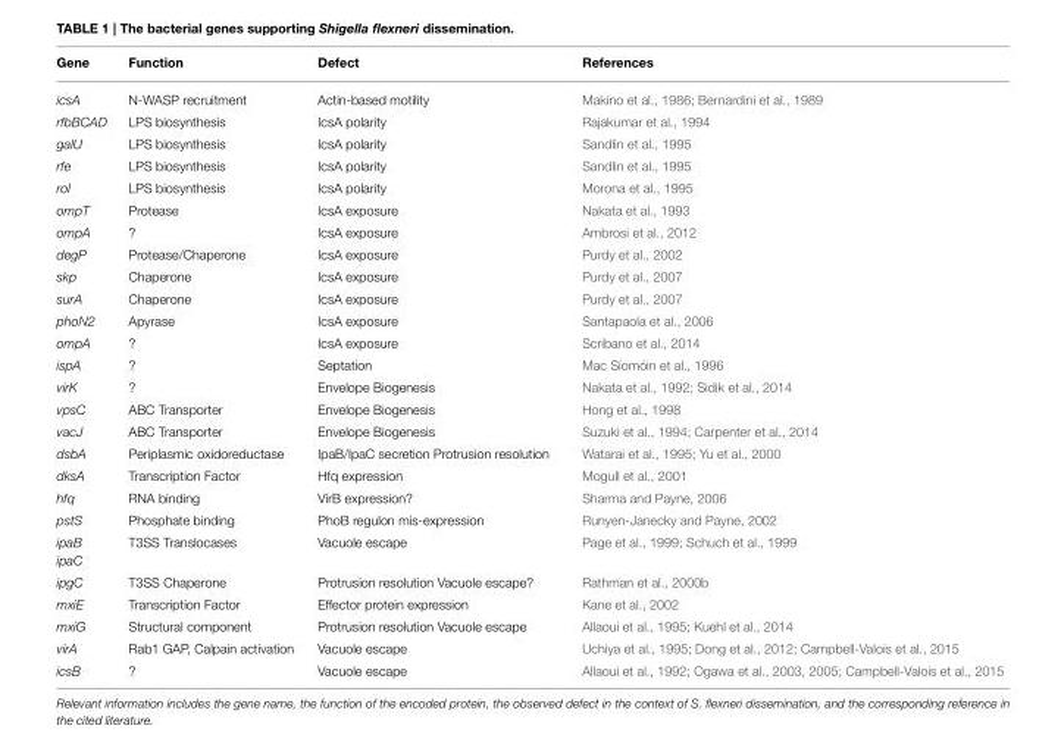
<table><thead><tr><td>Gene</td><td>Function</td><td>Defect</td><td>References</td></tr></thead><tbody><tr><td>icsA</td><td>N-WASP recruitment</td><td>Actin-based motility</td><td>Makino et al., 1986; Bernardini et al., 1989</td></tr><tr><td>rfbBCAD</td><td>LPS biosynthesis</td><td>IcsA polarity</td><td>Rajakumar et al., 1994</td></tr><tr><td>galU</td><td>LPS biosynthesis</td><td>IcsA polarity</td><td>Sandlin et al., 1995</td></tr><tr><td>rfe</td><td>LPS biosynthesis</td><td>IcsA polarity</td><td>Sandlin et al., 1995</td></tr><tr><td>rol</td><td>LPS biosynthesis</td><td>IcsA polarity</td><td>Morona et al., 1995</td></tr><tr><td>ompT</td><td>Protease</td><td>IcsA exposure</td><td>Nakata et al., 1993</td></tr><tr><td>ompA</td><td>?</td><td>IcsA exposure</td><td>Ambrosi et al., 2012</td></tr><tr><td>degP</td><td>Protease/Chaperone</td><td>IcsA exposure</td><td>Purdy et al., 2002</td></tr><tr><td>skp</td><td>Chaperone</td><td>IcsA exposure</td><td>Purdy et al., 2007</td></tr><tr><td>surA</td><td>Chaperone</td><td>IcsA exposure</td><td>Purdy et al., 2007</td></tr><tr><td>phoN2</td><td>Apyrase</td><td>IcsA exposure</td><td>Santapaola et al., 2006</td></tr><tr><td>ompA</td><td>?</td><td>IcsA exposure</td><td>Scribano et al., 2014</td></tr><tr><td>ispA</td><td>?</td><td>Septation</td><td>Mac Síomóin et al., 1996</td></tr><tr><td>virK</td><td>?</td><td>Envelope Biogenesis</td><td>Nakata et al., 1992; Sidik et al., 2014</td></tr><tr><td>vpsC</td><td>ABC Transporter</td><td>Envelope Biogenesis</td><td>Hong et al., 1998</td></tr><tr><td>vacJ</td><td>ABC Transporter</td><td>Envelope Biogenesis</td><td>Suzuki et al., 1994; Carpenter et al., 2014</td></tr><tr><td>dsbA</td><td>Periplasmic oxidoreductase</td><td>IpaB/IpaC secretion Protrusion resolution</td><td>Watarai et al., 1995; Yu et al., 2000</td></tr><tr><td>dksA</td><td>Transcription Factor</td><td>Hfq expression</td><td>Mogull et al., 2001</td></tr><tr><td>hfq</td><td>RNA binding</td><td>VirB expression?</td><td>Sharma and Payne, 2006</td></tr><tr><td>pstS</td><td>Phosphate binding</td><td>PhoB regulon mis-expression</td><td>Runyen-Janecky and Payne, 2002</td></tr><tr><td>ipaB ipaC</td><td>T3SS Translocases</td><td>Vacuole escape</td><td>Page et al., 1999; Schuch et al., 1999</td></tr><tr><td>ipgC</td><td>T3SS Chaperone</td><td>Protrusion resolution Vacuole escape?</td><td>Rathman et al., 2000b</td></tr><tr><td>mxiE</td><td>Transcription Factor</td><td>Effector protein expression</td><td>Kane et al., 2002</td></tr><tr><td>mxiG</td><td>Structural component</td><td>Protrusion resolution Vacuole escape</td><td>Allaoui et al., 1995; Kuehl et al., 2014</td></tr><tr><td>virA</td><td>Rab1 GAP, Calpain activation</td><td>Vacuole escape</td><td>Uchiya et al., 1995; Dong et al., 2012; Campbell-Valois et al., 2015</td></tr><tr><td>icsB</td><td>?</td><td>Vacuole escape</td><td>Allaoui et al., 1992; Ogawa et al., 2003, 2005; Campbell-Valois et al., 2015</td></tr></tbody></table>